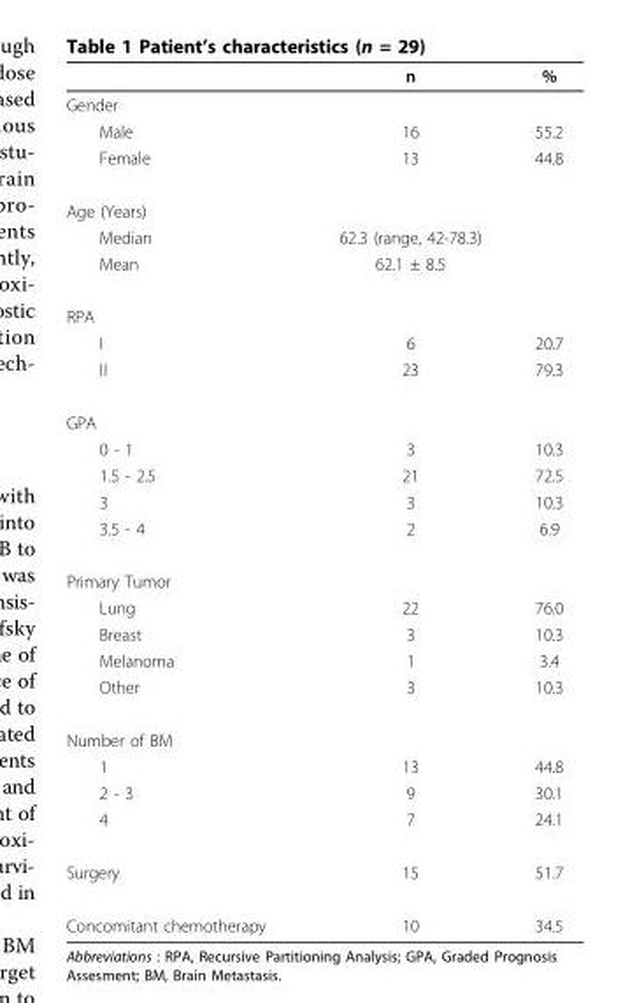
<table><thead><tr><td></td><td>n</td><td>%</td></tr></thead><tbody><tr><td colspan="3">Gender</td></tr><tr><td>Male</td><td>16</td><td>55.2</td></tr><tr><td>Female</td><td>13</td><td>44.8</td></tr><tr><td colspan="3">Age (Years)</td></tr><tr><td>Median</td><td>62.3 (range, 42-78.3)</td><td></td></tr><tr><td>Mean</td><td>62.1 ± 8.5</td><td></td></tr><tr><td colspan="3">RPA</td></tr><tr><td>I</td><td>6</td><td>20.7</td></tr><tr><td>II</td><td>23</td><td>79.3</td></tr><tr><td colspan="3">GPA</td></tr><tr><td>0 - 1</td><td>3</td><td>10.3</td></tr><tr><td>1.5 - 2.5</td><td>21</td><td>72.5</td></tr><tr><td>3</td><td>3</td><td>10.3</td></tr><tr><td>3.5 - 4</td><td>2</td><td>6.9</td></tr><tr><td colspan="3">Primary Tumor</td></tr><tr><td>Lung</td><td>22</td><td>76.0</td></tr><tr><td>Breast</td><td>3</td><td>10.3</td></tr><tr><td>Melanoma</td><td>1</td><td>3.4</td></tr><tr><td>Other</td><td>3</td><td>10.3</td></tr><tr><td colspan="3">Number of BM</td></tr><tr><td>1</td><td>13</td><td>44.8</td></tr><tr><td>2 - 3</td><td>9</td><td>30.1</td></tr><tr><td>4</td><td>7</td><td>24.1</td></tr><tr><td>Surgery</td><td>15</td><td>51.7</td></tr><tr><td>Concomitant chemotherapy</td><td>10</td><td>34.5</td></tr></tbody></table>